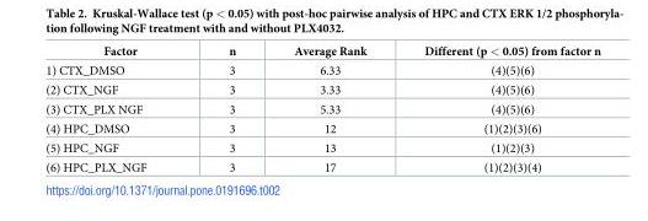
<table><thead><tr><td>Factor</td><td>n</td><td>Average Rank</td><td>Different (p &lt; 0.05) from factor n</td></tr></thead><tbody><tr><td>1) CTX_DMSO</td><td>3</td><td>6.33</td><td>(4)(5)(6)</td></tr><tr><td>(2) CTX_NGF</td><td>3</td><td>3.33</td><td>(4)(5)(6)</td></tr><tr><td>(3) CTX_PLX NGF</td><td>3</td><td>5.33</td><td>(4)(5)(6)</td></tr><tr><td>(4) HPC_DMSO</td><td>3</td><td>12</td><td>(1)(2)(3)(6)</td></tr><tr><td>(5) HPC_NGF</td><td>3</td><td>13</td><td>(1)(2)(3)</td></tr><tr><td>(6) HPC_PLX_NGF</td><td>3</td><td>17</td><td>(1)(2)(3)(4)</td></tr></tbody></table>